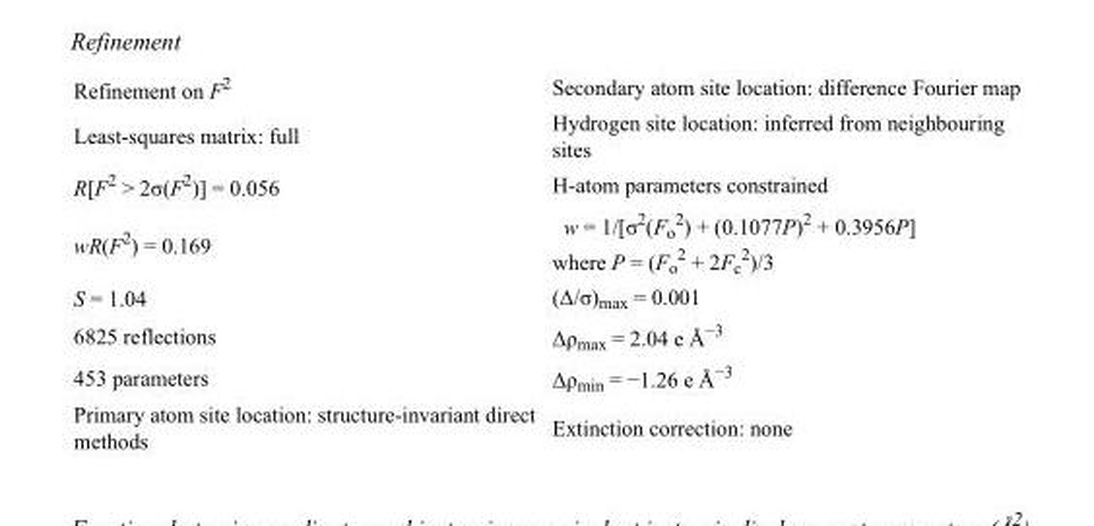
<table><tbody><tr><td>Refinement on F<sup>2</sup></td><td>Secondary atom site location: difference Fourier map</td></tr><tr><td>Least-squares matrix: full</td><td>Hydrogen site location: inferred from neighbouring sites</td></tr><tr><td>R[F<sup>2</sup> &gt; 2σ(F<sup>2</sup>)] = 0.056</td><td>H-atom parameters constrained</td></tr><tr><td>wR(F<sup>2</sup>) = 0.169</td><td>w = 1/[σ<sup>2</sup>(F<sub>o</sub> <sup>2</sup>) + (0.1077P)<sup>2</sup> + 0.3956P] where P = (F<sub>o</sub> <sup>2</sup> + 2F<sub>c</sub> <sup>2</sup>)/3</td></tr><tr><td>S = 1.04</td><td>(Δ/σ)<sub>max</sub> = 0.001</td></tr><tr><td>6825 reflections</td><td>Δρ<sub>max</sub> = 2.04 e Å<sup>−3</sup></td></tr><tr><td>453 parameters</td><td>Δρ<sub>min</sub> = −1.26 e Å<sup>−3</sup></td></tr><tr><td>Primary atom site location: structure-invariant direct methods</td><td>Extinction correction: none</td></tr></tbody></table>